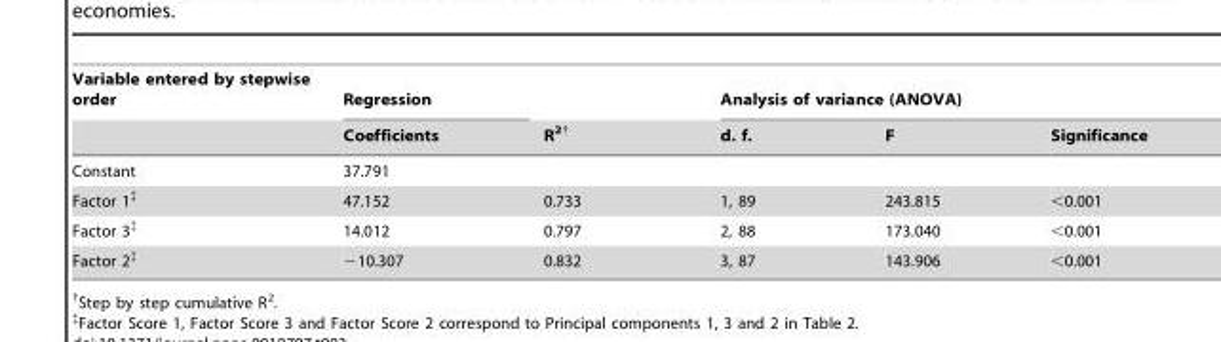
<table><thead><tr><td rowspan="2">Variable entered by stepwise order</td><td rowspan="2">Regression Coefficients</td><td rowspan="2">R<sup>2</sup>†</td><td colspan="3">Analysis of variance (ANOVA)</td></tr><tr><td>d. f.</td><td>F</td><td>Significance</td></tr></thead><tbody><tr><td>Constant</td><td>37.791</td><td></td><td></td><td></td><td></td></tr><tr><td>Factor 1‡</td><td>47.152</td><td>0.733</td><td>1, 89</td><td>243.815</td><td>&lt;0.001</td></tr><tr><td>Factor 3‡</td><td>14.012</td><td>0.797</td><td>2, 88</td><td>173.040</td><td>&lt;0.001</td></tr><tr><td>Factor 2‡</td><td>−10.307</td><td>0.832</td><td>3, 87</td><td>143.906</td><td>&lt;0.001</td></tr></tbody></table>